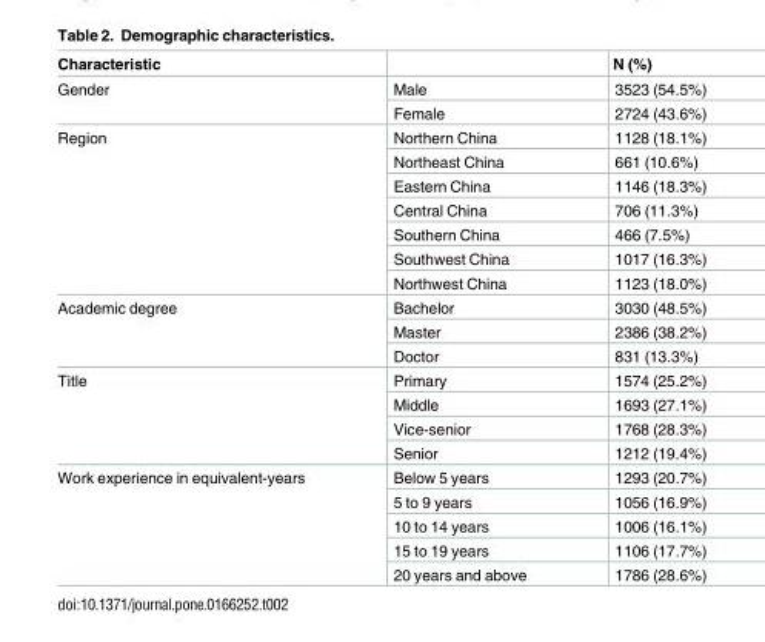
<table><thead><tr><td>Characteristic</td><td></td><td>N (%)</td></tr></thead><tbody><tr><td rowspan="2">Gender</td><td>Male</td><td>3523 (54.5%)</td></tr><tr><td>Female</td><td>2724 (43.6%)</td></tr><tr><td rowspan="7">Region</td><td>Northern China</td><td>1128 (18.1%)</td></tr><tr><td>Northeast China</td><td>661 (10.6%)</td></tr><tr><td>Eastern China</td><td>1146 (18.3%)</td></tr><tr><td>Central China</td><td>706 (11.3%)</td></tr><tr><td>Southern China</td><td>466 (7.5%)</td></tr><tr><td>Southwest China</td><td>1017 (16.3%)</td></tr><tr><td>Northwest China</td><td>1123 (18.0%)</td></tr><tr><td rowspan="3">Academic degree</td><td>Bachelor</td><td>3030 (48.5%)</td></tr><tr><td>Master</td><td>2386 (38.2%)</td></tr><tr><td>Doctor</td><td>831 (13.3%)</td></tr><tr><td rowspan="4">Title</td><td>Primary</td><td>1574 (25.2%)</td></tr><tr><td>Middle</td><td>1693 (27.1%)</td></tr><tr><td>Vice-senior</td><td>1768 (28.3%)</td></tr><tr><td>Senior</td><td>1212 (19.4%)</td></tr><tr><td rowspan="5">Work experience in equivalent-years</td><td>Below 5 years</td><td>1293 (20.7%)</td></tr><tr><td>5 to 9 years</td><td>1056 (16.9%)</td></tr><tr><td>10 to 14 years</td><td>1006 (16.1%)</td></tr><tr><td>15 to 19 years</td><td>1106 (17.7%)</td></tr><tr><td>20 years and above</td><td>1786 (28.6%)</td></tr></tbody></table>